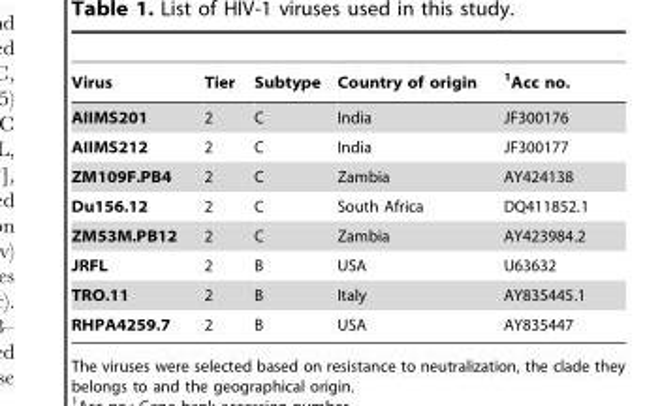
<table><thead><tr><td>Virus</td><td>Tier</td><td>Subtype</td><td>Country of origin</td><td>1Acc no.</td></tr></thead><tbody><tr><td>AIIMS201</td><td>2</td><td>C</td><td>India</td><td>JF300176</td></tr><tr><td>AIIMS212</td><td>2</td><td>C</td><td>India</td><td>JF300177</td></tr><tr><td>ZM109F.PB4</td><td>2</td><td>C</td><td>Zambia</td><td>AY424138</td></tr><tr><td>Du156.12</td><td>2</td><td>C</td><td>South Africa</td><td>DQ411852.1</td></tr><tr><td>ZM53M.PB12</td><td>2</td><td>C</td><td>Zambia</td><td>AY423984.2</td></tr><tr><td>JRFL</td><td>2</td><td>B</td><td>USA</td><td>U63632</td></tr><tr><td>TRO.11</td><td>2</td><td>B</td><td>Italy</td><td>AY835445.1</td></tr><tr><td>RHPA4259.7</td><td>2</td><td>B</td><td>USA</td><td>AY835447</td></tr></tbody></table>